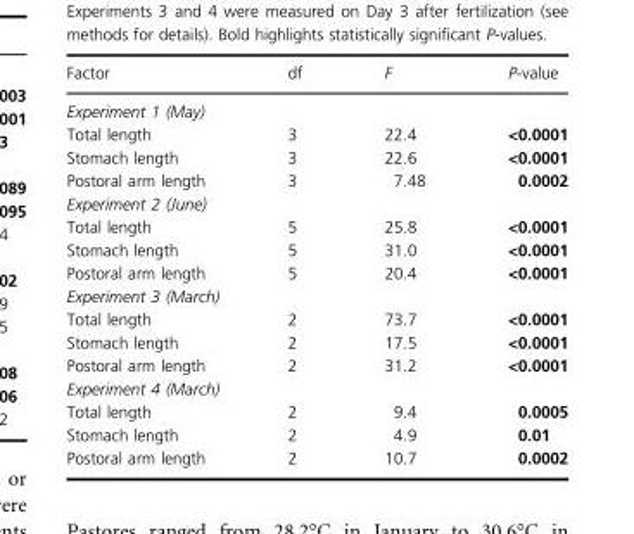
<table><thead><tr><td>Factor</td><td>df</td><td>F</td><td>P-value</td></tr></thead><tbody><tr><td colspan="4">Experiment 1 (May)</td></tr><tr><td>Total length</td><td>3</td><td>22.4</td><td>&lt;0.0001</td></tr><tr><td>Stomach length</td><td>3</td><td>22.6</td><td>&lt;0.0001</td></tr><tr><td>Postoral arm length</td><td>3</td><td>7.48</td><td>0.0002</td></tr><tr><td colspan="4">Experiment 2 (June)</td></tr><tr><td>Total length</td><td>5</td><td>25.8</td><td>&lt;0.0001</td></tr><tr><td>Stomach length</td><td>5</td><td>31.0</td><td>&lt;0.0001</td></tr><tr><td>Postoral arm length</td><td>5</td><td>20.4</td><td>&lt;0.0001</td></tr><tr><td colspan="4">Experiment 3 (March)</td></tr><tr><td>Total length</td><td>2</td><td>73.7</td><td>&lt;0.0001</td></tr><tr><td>Stomach length</td><td>2</td><td>17.5</td><td>&lt;0.0001</td></tr><tr><td>Postoral arm length</td><td>2</td><td>31.2</td><td>&lt;0.0001</td></tr><tr><td colspan="4">Experiment 4 (March)</td></tr><tr><td>Total length</td><td>2</td><td>9.4</td><td>0.0005</td></tr><tr><td>Stomach length</td><td>2</td><td>4.9</td><td>0.01</td></tr><tr><td>Postoral arm length</td><td>2</td><td>10.7</td><td>0.0002</td></tr></tbody></table>